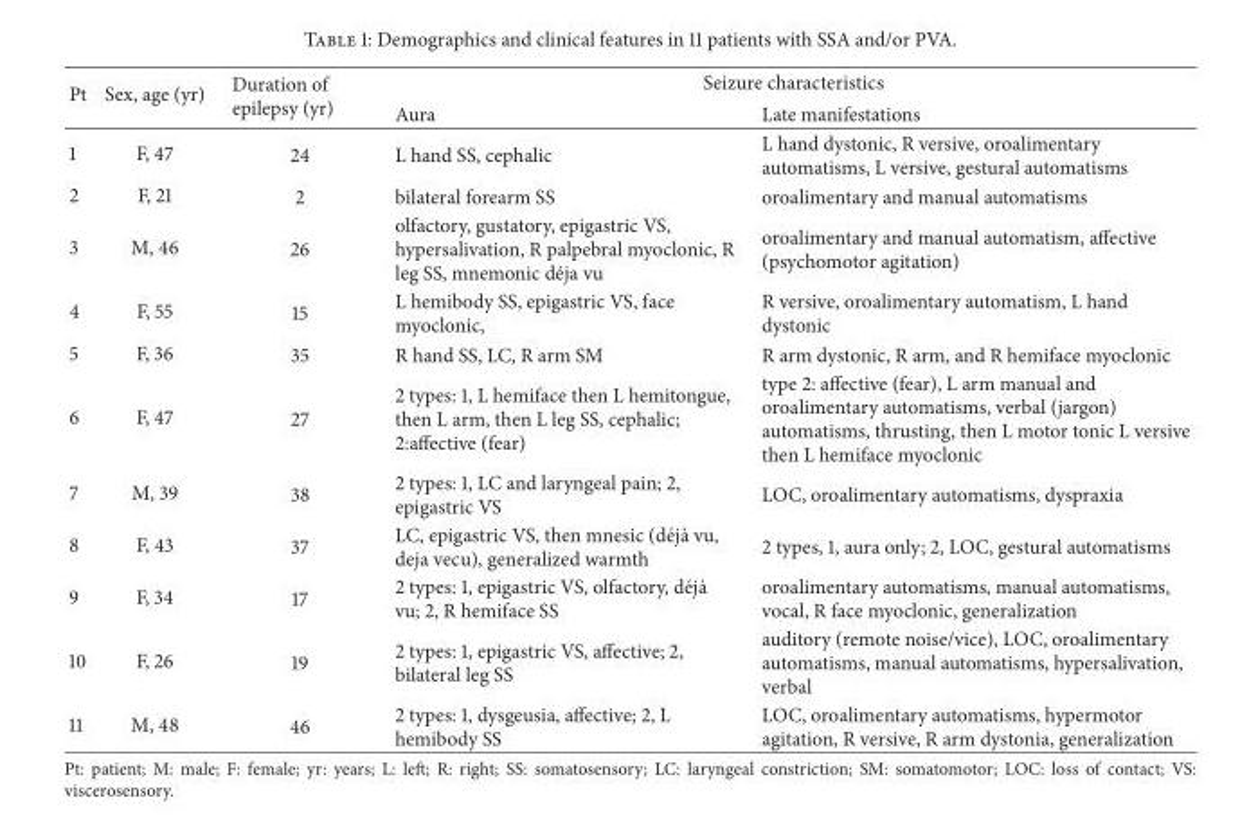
<table><thead><tr><td rowspan="2">Pt</td><td rowspan="2">Sex, age (yr)</td><td rowspan="2">Duration of epilepsy (yr)</td><td colspan="2">Seizure characteristics</td></tr><tr><td>Aura</td><td>Late manifestations</td></tr></thead><tbody><tr><td>1</td><td>F, 47</td><td>24</td><td>L hand SS, cephalic</td><td>L hand dystonic, R versive, oroalimentary automatisms, L versive, gestural automatisms</td></tr><tr><td>2</td><td>F, 21</td><td>2</td><td>bilateral forearm SS</td><td>oroalimentary and manual automatisms</td></tr><tr><td>3</td><td>M, 46</td><td>26</td><td>olfactory, gustatory, epigastric VS, hypersalivation, R palpebral myoclonic, R leg SS, mnemonic d´eja vu</td><td>oroalimentary and manual automatism, affective (psychomotor agitation)</td></tr><tr><td>4</td><td>F, 55</td><td>15</td><td>L hemibody SS, epigastric VS, face myoclonic,</td><td>R versive, oroalimentary automatism, L hand dystonic</td></tr><tr><td>5</td><td>F, 36</td><td>35</td><td>R hand SS, LC, R arm SM</td><td>R arm dystonic, R arm, and R hemiface myoclonic</td></tr><tr><td>6</td><td>F, 47</td><td>27</td><td>2 types: 1, L hemiface then L hemitongue, then L arm, then L leg SS, cephalic; 2:affective (fear)</td><td>type 2: affective (fear), L arm manual and oroalimentary automatisms, verbal (jargon) automatisms, thrusting, then L motor tonic L versive then L hemiface myoclonic</td></tr><tr><td>7</td><td>M, 39</td><td>38</td><td>2 types: 1, LC and laryngeal pain; 2, epigastric VS</td><td>LOC, oroalimentary automatisms, dyspraxia</td></tr><tr><td>8</td><td>F, 43</td><td>37</td><td>LC, epigastric VS, then mnesic (d´ej`a vu, deja vecu), generalized warmth</td><td>2 types, 1, aura only; 2, LOC, gestural automatisms</td></tr><tr><td>9</td><td>F, 34</td><td>17</td><td>2 types: 1, epigastric VS, olfactory, d´ej`a vu; 2, R hemiface SS</td><td>oroalimentary automatisms, manual automatisms, vocal, R face myoclonic, generalization</td></tr><tr><td>10</td><td>F, 26</td><td>19</td><td>2 types: 1, epigastric VS, affective; 2, bilateral leg SS</td><td>auditory (remote noise/vice), LOC, oroalimentary automatisms, manual automatisms, hypersalivation, verbal</td></tr><tr><td>11</td><td>M, 48</td><td>46</td><td>2 types: 1, dysgeusia, affective; 2, L hemibody SS</td><td>LOC, oroalimentary automatisms, hypermotor agitation, R versive, R arm dystonia, generalization</td></tr></tbody></table>